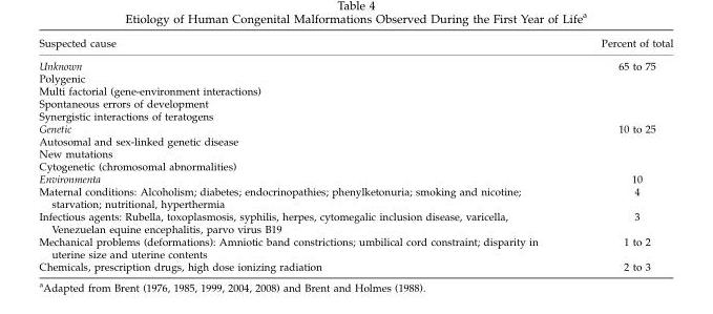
<table><thead><tr><td>Suspected cause</td><td>Percent of total</td></tr></thead><tbody><tr><td>Unknown</td><td>65 to 75</td></tr><tr><td colspan="2">Polygenic</td></tr><tr><td colspan="2">Multi factorial (gene-environment interactions)</td></tr><tr><td colspan="2">Spontaneous errors of development</td></tr><tr><td colspan="2">Synergistic interactions of teratogens</td></tr><tr><td>Genetic</td><td>10 to 25</td></tr><tr><td colspan="2">Autosomal and sex-linked genetic disease</td></tr><tr><td colspan="2">New mutations</td></tr><tr><td colspan="2">Cytogenetic (chromosomal abnormalities)</td></tr><tr><td>Environmenta</td><td>10</td></tr><tr><td>Maternal conditions: Alcoholism; diabetes; endocrinopathies; phenylketonuria; smoking and nicotine; starvation; nutritional, hyperthermia</td><td>4</td></tr><tr><td>Infectious agents: Rubella, toxoplasmosis, syphilis, herpes, cytomegalic inclusion disease, varicella, Venezuelan equine encephalitis, parvo virus B19</td><td>3</td></tr><tr><td>Mechanical problems (deformations): Amniotic band constrictions; umbilical cord constraint; disparity in uterine size and uterine contents</td><td>1 to 2</td></tr><tr><td>Chemicals, prescription drugs, high dose ionizing radiation</td><td>2 to 3</td></tr></tbody></table>